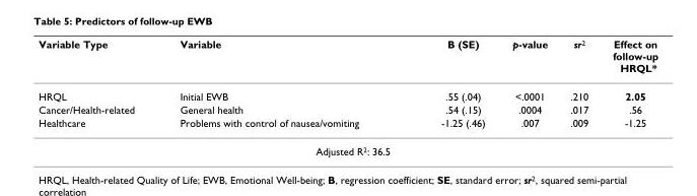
<table><thead><tr><td>Variable Type</td><td>Variable</td><td>B (SE)</td><td>p-value</td><td>sr<sup>2</sup></td><td>Effect on follow-up HRQL*</td></tr></thead><tbody><tr><td>HRQL</td><td>Initial EWB</td><td>.55 (.04)</td><td>&lt;.0001</td><td>.210</td><td>2.05</td></tr><tr><td>Cancer/Health-related</td><td>General health</td><td>.54 (.15)</td><td>.0004</td><td>.017</td><td>.56</td></tr><tr><td>Healthcare</td><td>Problems with control of nausea/vomiting</td><td>-1.25 (.46)</td><td>.007</td><td>.009</td><td>-1.25</td></tr><tr><td colspan="6">Adjusted R<sup>2</sup>: 36.5</td></tr></tbody></table>